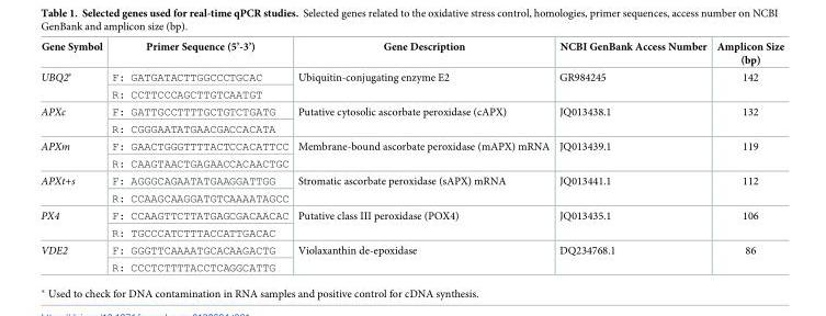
<table><thead><tr><td>Gene Symbol</td><td>Primer Sequence (5’-3’)</td><td>Gene Description</td><td>NCBI GenBank Access Number</td><td>Amplicon Size (bp)</td></tr></thead><tbody><tr><td rowspan="2">UBQ2*</td><td>F: GATGATACTTGGCCCTGCAC</td><td rowspan="2">Ubiquitin-conjugating enzyme E2</td><td rowspan="2">GR984245</td><td rowspan="2">142</td></tr><tr><td>R: CCTTCCCAGCTTGTCAATGT</td></tr><tr><td rowspan="2">APXc</td><td>F: GATTGCCTTTTGCTGTCTGATG</td><td rowspan="2">Putative cytosolic ascorbate peroxidase (cAPX)</td><td rowspan="2">JQ013438.1</td><td rowspan="2">132</td></tr><tr><td>R: CGGGAATATGAACGACCACATA</td></tr><tr><td rowspan="2">APXm</td><td>F: GAACTGGGTTTTACTCCACATTCC</td><td rowspan="2">Membrane-bound ascorbate peroxidase (mAPX) mRNA</td><td rowspan="2">JQ013439.1</td><td rowspan="2">119</td></tr><tr><td>R: CAAGTAACTGAGAACCACAACTGC</td></tr><tr><td rowspan="2">APXt+s</td><td>F: AGGGCAGAATATGAAGGATTGG</td><td rowspan="2">Stromatic ascorbate peroxidase (sAPX) mRNA</td><td rowspan="2">JQ013441.1</td><td rowspan="2">112</td></tr><tr><td>R: CCAAGCAAGGATGTCAAAATAGCC</td></tr><tr><td rowspan="2">PX4</td><td>F: CCAAGTTCTTATGAGCGACAACAC</td><td rowspan="2">Putative class III peroxidase (POX4)</td><td rowspan="2">JQ013435.1</td><td rowspan="2">106</td></tr><tr><td>R: TGCCCATCTTTACCATTGACAC</td></tr><tr><td rowspan="2">VDE2</td><td>F: GGGTTCAAAATGCACAAGACTG</td><td rowspan="2">Violaxanthin de-epoxidase</td><td rowspan="2">DQ234768.1</td><td rowspan="2">86</td></tr><tr><td>R: CCCTCTTTTACCTCAGGCATTG</td></tr></tbody></table>